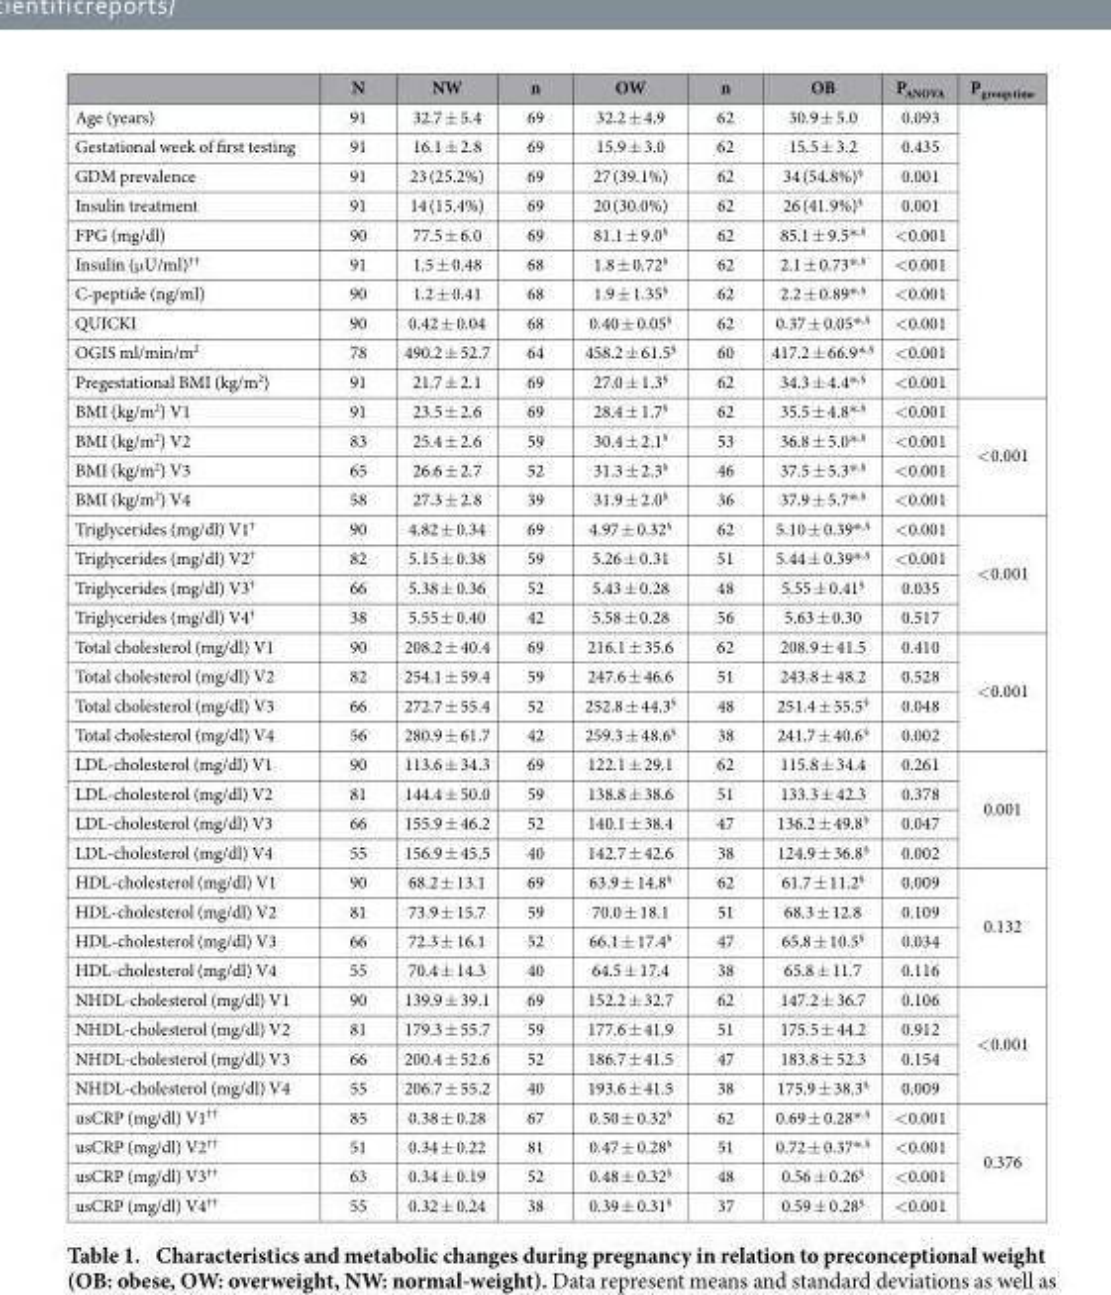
<table><thead><tr><td></td><td>N</td><td>NW</td><td>n</td><td>OW</td><td>n</td><td>OB</td><td>P<sub>ANOVA</sub></td><td>P<sub>group:time</sub></td></tr></thead><tbody><tr><td>Age (years)</td><td>91</td><td>32.7 ± 5.4</td><td>69</td><td>32.2 ± 4.9</td><td>62</td><td>30.9 ± 5.0</td><td>0.093</td><td rowspan="10"></td></tr><tr><td>Gestational week of first testing</td><td>91</td><td>16.1 ± 2.8</td><td>69</td><td>15.9 ± 3.0</td><td>62</td><td>15.5 ± 3.2</td><td>0.435</td></tr><tr><td>GDM prevalence</td><td>91</td><td>23 (25.2%)</td><td>69</td><td>27 (39.1%)</td><td>62</td><td>34 (54.8%)§</td><td>0.001</td></tr><tr><td>Insulin treatment</td><td>91</td><td>14 (15.4%)</td><td>69</td><td>20 (30.0%)</td><td>62</td><td>26 (41.9%)§</td><td>0.001</td></tr><tr><td>FPG (mg/dl)</td><td>90</td><td>77.5 ± 6.0</td><td>69</td><td>81.1 ± 9.0§</td><td>62</td><td>85.1 ± 9.5* <sup>,§</sup></td><td>&lt; 0.001</td></tr><tr><td>Insulin (μ U/ml)††</td><td>91</td><td>1.5 ± 0.48</td><td>68</td><td>1.8 ± 0.72§</td><td>62</td><td>2.1 ± 0.73* <sup>,§</sup></td><td>&lt; 0.001</td></tr><tr><td>C-peptide (ng/ml)</td><td>90</td><td>1.2 ± 0.41</td><td>68</td><td>1.9 ± 1.35§</td><td>62</td><td>2.2 ± 0.89* <sup>,§</sup></td><td>&lt; 0.001</td></tr><tr><td>QUICKI</td><td>90</td><td>0.42 ± 0.04</td><td>68</td><td>0.40 ± 0.05§</td><td>62</td><td>0.37 ± 0.05* <sup>,§</sup></td><td>&lt; 0.001</td></tr><tr><td>OGIS ml/min/m<sup>2</sup></td><td>78</td><td>490.2 ± 52.7</td><td>64</td><td>458.2 ± 61.5§</td><td>60</td><td>417.2 ± 66.9* <sup>,§</sup></td><td>&lt; 0.001</td></tr><tr><td>Pregestational BMI (kg/m<sup>2</sup>)</td><td>91</td><td>21.7 ± 2.1</td><td>69</td><td>27.0 ± 1.3§</td><td>62</td><td>34.3 ± 4.4* <sup>,§</sup></td><td>&lt; 0.001</td></tr><tr><td>BMI (kg/m<sup>2</sup>) V1</td><td>91</td><td>23.5 ± 2.6</td><td>69</td><td>28.4 ± 1.7§</td><td>62</td><td>35.5 ± 4.8* <sup>,§</sup></td><td>&lt; 0.001</td><td rowspan="4">&lt; 0.001</td></tr><tr><td>BMI (kg/m<sup>2</sup>) V2</td><td>83</td><td>25.4 ± 2.6</td><td>59</td><td>30.4 ± 2.1§</td><td>53</td><td>36.8 ± 5.0* <sup>,§</sup></td><td>&lt; 0.001</td></tr><tr><td>BMI (kg/m<sup>2</sup>) V3</td><td>65</td><td>26.6 ± 2.7</td><td>52</td><td>31.3 ± 2.3§</td><td>46</td><td>37.5 ± 5.3* <sup>,§</sup></td><td>&lt; 0.001</td></tr><tr><td>BMI (kg/m<sup>2</sup>) V4</td><td>58</td><td>27.3 ± 2.8</td><td>39</td><td>31.9 ± 2.0§</td><td>36</td><td>37.9 ± 5.7* <sup>,§</sup></td><td>&lt; 0.001</td></tr><tr><td>Triglycerides (mg/dl) V1†</td><td>90</td><td>4.82 ± 0.34</td><td>69</td><td>4.97 ± 0.32§</td><td>62</td><td>5.10 ± 0.39* <sup>,§</sup></td><td>&lt; 0.001</td><td rowspan="4">&lt; 0.001</td></tr><tr><td>Triglycerides (mg/dl) V2†</td><td>82</td><td>5.15 ± 0.38</td><td>59</td><td>5.26 ± 0.31</td><td>51</td><td>5.44 ± 0.39* <sup>,§</sup></td><td>&lt; 0.001</td></tr><tr><td>Triglycerides (mg/dl) V3†</td><td>66</td><td>5.38 ± 0.36</td><td>52</td><td>5.43 ± 0.28</td><td>48</td><td>5.55 ± 0.41§</td><td>0.035</td></tr><tr><td>Triglycerides (mg/dl) V4†</td><td>38</td><td>5.55 ± 0.40</td><td>42</td><td>5.58 ± 0.28</td><td>56</td><td>5.63 ± 0.30</td><td>0.517</td></tr><tr><td>Total cholesterol (mg/dl) V1</td><td>90</td><td>208.2 ± 40.4</td><td>69</td><td>216.1 ± 35.6</td><td>62</td><td>208.9 ± 41.5</td><td>0.410</td><td rowspan="4">&lt; 0.001</td></tr><tr><td>Total cholesterol (mg/dl) V2</td><td>82</td><td>254.1 ± 59.4</td><td>59</td><td>247.6 ± 46.6</td><td>51</td><td>243.8 ± 48.2</td><td>0.528</td></tr><tr><td>Total cholesterol (mg/dl) V3</td><td>66</td><td>272.7 ± 55.4</td><td>52</td><td>252.8 ± 44.3§</td><td>48</td><td>251.4 ± 55.5§</td><td>0.048</td></tr><tr><td>Total cholesterol (mg/dl) V4</td><td>56</td><td>280.9 ± 61.7</td><td>42</td><td>259.3 ± 48.6§</td><td>38</td><td>241.7 ± 40.6§</td><td>0.002</td></tr><tr><td>LDL-cholesterol (mg/dl) V1</td><td>90</td><td>113.6 ± 34.3</td><td>69</td><td>122.1 ± 29.1</td><td>62</td><td>115.8 ± 34.4</td><td>0.261</td><td rowspan="4">0.001</td></tr><tr><td>LDL-cholesterol (mg/dl) V2</td><td>81</td><td>144.4 ± 50.0</td><td>59</td><td>138.8 ± 38.6</td><td>51</td><td>133.3 ± 42.3</td><td>0.378</td></tr><tr><td>LDL-cholesterol (mg/dl) V3</td><td>66</td><td>155.9 ± 46.2</td><td>52</td><td>140.1 ± 38.4</td><td>47</td><td>136.2 ± 49.8§</td><td>0.047</td></tr><tr><td>LDL-cholesterol (mg/dl) V4</td><td>55</td><td>156.9 ± 45.5</td><td>40</td><td>142.7 ± 42.6</td><td>38</td><td>124.9 ± 36.8§</td><td>0.002</td></tr><tr><td>HDL-cholesterol (mg/dl) V1</td><td>90</td><td>68.2 ± 13.1</td><td>69</td><td>63.9 ± 14.8§</td><td>62</td><td>61.7 ± 11.2§</td><td>0.009</td><td rowspan="4">0.132</td></tr><tr><td>HDL-cholesterol (mg/dl) V2</td><td>81</td><td>73.9 ± 15.7</td><td>59</td><td>70.0 ± 18.1</td><td>51</td><td>68.3 ± 12.8</td><td>0.109</td></tr><tr><td>HDL-cholesterol (mg/dl) V3</td><td>66</td><td>72.3 ± 16.1</td><td>52</td><td>66.1 ± 17.4§</td><td>47</td><td>65.8 ± 10.5§</td><td>0.034</td></tr><tr><td>HDL-cholesterol (mg/dl) V4</td><td>55</td><td>70.4 ± 14.3</td><td>40</td><td>64.5 ± 17.4</td><td>38</td><td>65.8 ± 11.7</td><td>0.116</td></tr><tr><td>NHDL-cholesterol (mg/dl) V1</td><td>90</td><td>139.9 ± 39.1</td><td>69</td><td>152.2 ± 32.7</td><td>62</td><td>147.2 ± 36.7</td><td>0.106</td><td rowspan="4">&lt; 0.001</td></tr><tr><td>NHDL-cholesterol (mg/dl) V2</td><td>81</td><td>179.3 ± 55.7</td><td>59</td><td>177.6 ± 41.9</td><td>51</td><td>175.5 ± 44.2</td><td>0.912</td></tr><tr><td>NHDL-cholesterol (mg/dl) V3</td><td>66</td><td>200.4 ± 52.6</td><td>52</td><td>186.7 ± 41.5</td><td>47</td><td>183.8 ± 52.3</td><td>0.154</td></tr><tr><td>NHDL-cholesterol (mg/dl) V4</td><td>55</td><td>206.7 ± 55.2</td><td>40</td><td>193.6 ± 41.5</td><td>38</td><td>175.9 ± 38.3§</td><td>0.009</td></tr><tr><td>usCRP (mg/dl) V1††</td><td>85</td><td>0.38 ± 0.28</td><td>67</td><td>0.50 ± 0.32§</td><td>62</td><td>0.69 ± 0.28* <sup>,§</sup></td><td>&lt; 0.001</td><td rowspan="4">0.376</td></tr><tr><td>usCRP (mg/dl) V2††</td><td>51</td><td>0.34 ± 0.22</td><td>81</td><td>0.47 ± 0.28§</td><td>51</td><td>0.72 ± 0.37* <sup>,§</sup></td><td>&lt; 0.001</td></tr><tr><td>usCRP (mg/dl) V3††</td><td>63</td><td>0.34 ± 0.19</td><td>52</td><td>0.48 ± 0.32§</td><td>48</td><td>0.56 ± 0.26§</td><td>&lt; 0.001</td></tr><tr><td>usCRP (mg/dl) V4††</td><td>55</td><td>0.32 ± 0.24</td><td>38</td><td>0.39 ± 0.31§</td><td>37</td><td>0.59 ± 0.28§</td><td>&lt; 0.001</td></tr></tbody></table>